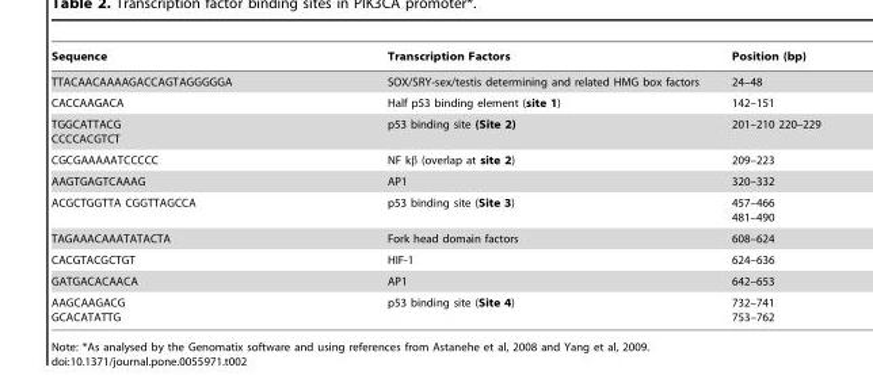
<table><thead><tr><td>Sequence</td><td>Transcription Factors</td><td>Position (bp)</td></tr></thead><tbody><tr><td>TTACAACAAAAGACCAGTAGGGGGA</td><td>SOX/SRY-sex/testis determining and related HMG box factors</td><td>24–48</td></tr><tr><td>CACCAAGACA</td><td>Half p53 binding element (site 1)</td><td>142–151</td></tr><tr><td>TGGCATTACG CCCCACGTCT</td><td>p53 binding site (Site 2)</td><td>201–210 220–229</td></tr><tr><td>CGCGAAAAATCCCCC</td><td>NF kβ (overlap at site 2)</td><td>209–223</td></tr><tr><td>AAGTGAGTCAAAG</td><td>AP1</td><td>320–332</td></tr><tr><td>ACGCTGGTTA CGGTTAGCCA</td><td>p53 binding site (Site 3)</td><td>457–466 481–490</td></tr><tr><td>TAGAAACAAATATACTA</td><td>Fork head domain factors</td><td>608–624</td></tr><tr><td>CACGTACGCTGT</td><td>HIF-1</td><td>624–636</td></tr><tr><td>GATGACACAACA</td><td>AP1</td><td>642–653</td></tr><tr><td>AAGCAAGACG GCACATATTG</td><td>p53 binding site (Site 4)</td><td>732–741 753–762</td></tr></tbody></table>